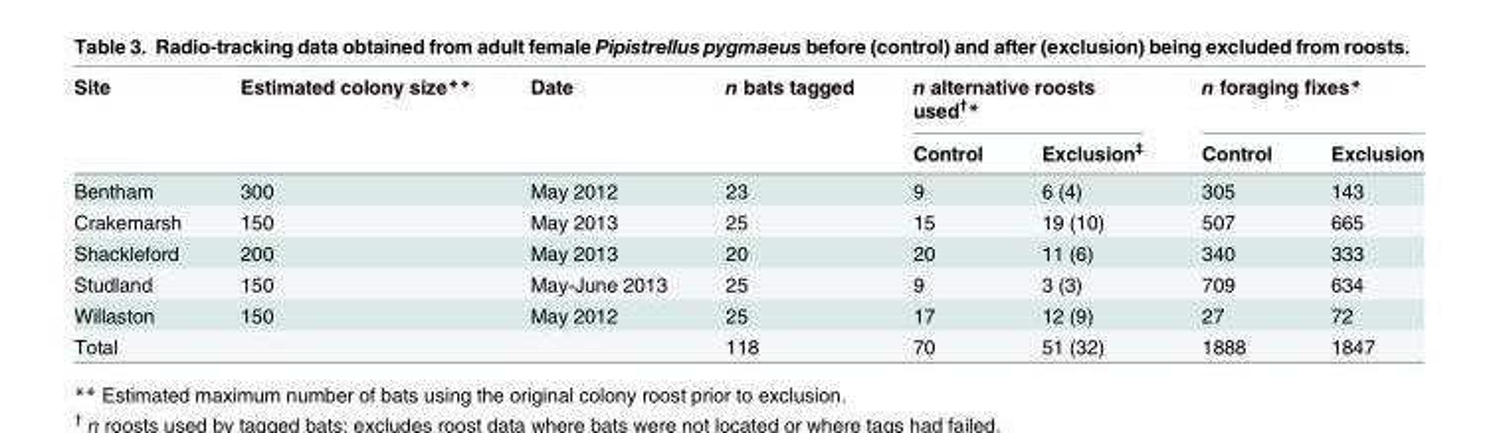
<table><thead><tr><td rowspan="2">Site</td><td rowspan="2">Estimated colony size**</td><td rowspan="2">Date</td><td rowspan="2">n bats tagged</td><td colspan="2">n alternative roosts used<sup>†</sup>*</td><td colspan="2">n foraging fixes*</td></tr><tr><td>Control</td><td>Exclusion<sup>‡</sup></td><td>Control</td><td>Exclusion</td></tr></thead><tbody><tr><td>Bentham</td><td>300</td><td>May 2012</td><td>23</td><td>9</td><td>6 (4)</td><td>305</td><td>143</td></tr><tr><td>Crakemarsh</td><td>150</td><td>May 2013</td><td>25</td><td>15</td><td>19 (10)</td><td>507</td><td>665</td></tr><tr><td>Shackleford</td><td>200</td><td>May 2013</td><td>20</td><td>20</td><td>11 (6)</td><td>340</td><td>333</td></tr><tr><td>Studland</td><td>150</td><td>May-June 2013</td><td>25</td><td>9</td><td>3 (3)</td><td>709</td><td>634</td></tr><tr><td>Willaston</td><td>150</td><td>May 2012</td><td>25</td><td>17</td><td>12 (9)</td><td>27</td><td>72</td></tr><tr><td>Total</td><td></td><td></td><td>118</td><td>70</td><td>51 (32)</td><td>1888</td><td>1847</td></tr></tbody></table>